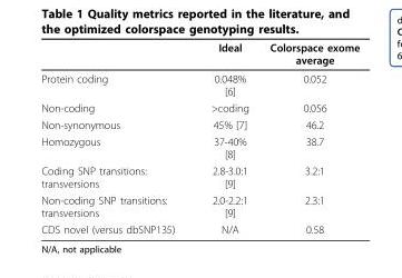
<table><thead><tr><td></td><td>Ideal</td><td>Colorspace exome average</td></tr></thead><tbody><tr><td>Protein coding</td><td>0.048% [6]</td><td>0.052</td></tr><tr><td>Non-coding</td><td>&gt;coding</td><td>0.056</td></tr><tr><td>Non-synonymous</td><td>45% [7]</td><td>46.2</td></tr><tr><td>Homozygous</td><td>37-40% [8]</td><td>38.7</td></tr><tr><td>Coding SNP transitions: transversions</td><td>2.8-3.0:1 [9]</td><td>3.2:1</td></tr><tr><td>Non-coding SNP transitions: transversions</td><td>2.0-2.2:1 [9]</td><td>2.3:1</td></tr><tr><td>CDS novel (versus dbSNP135)</td><td>N/A</td><td>0.58</td></tr></tbody></table>